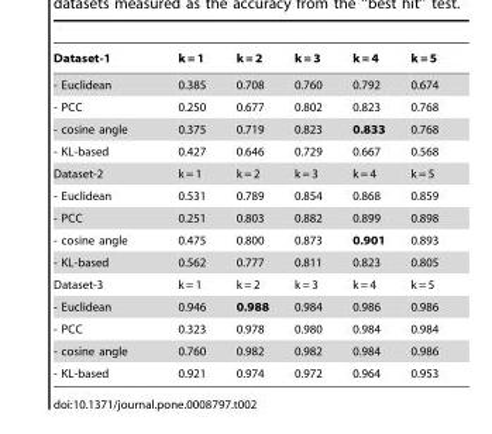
<table><thead><tr><td>Dataset-1</td><td>k = 1</td><td>k = 2</td><td>k = 3</td><td>k = 4</td><td>k = 5</td></tr></thead><tbody><tr><td>- Euclidean</td><td>0.385</td><td>0.708</td><td>0.760</td><td>0.792</td><td>0.674</td></tr><tr><td>- PCC</td><td>0.250</td><td>0.677</td><td>0.802</td><td>0.823</td><td>0.768</td></tr><tr><td>- cosine angle</td><td>0.375</td><td>0.719</td><td>0.823</td><td>0.833</td><td>0.768</td></tr><tr><td>- KL-based</td><td>0.427</td><td>0.646</td><td>0.729</td><td>0.667</td><td>0.568</td></tr><tr><td>Dataset-2</td><td>k = 1</td><td>k = 2</td><td>k = 3</td><td>k = 4</td><td>k = 5</td></tr><tr><td>- Euclidean</td><td>0.531</td><td>0.789</td><td>0.854</td><td>0.868</td><td>0.859</td></tr><tr><td>- PCC</td><td>0.251</td><td>0.803</td><td>0.882</td><td>0.899</td><td>0.898</td></tr><tr><td>- cosine angle</td><td>0.475</td><td>0.800</td><td>0.873</td><td>0.901</td><td>0.893</td></tr><tr><td>- KL-based</td><td>0.562</td><td>0.777</td><td>0.811</td><td>0.823</td><td>0.805</td></tr><tr><td>Dataset-3</td><td>k = 1</td><td>k = 2</td><td>k = 3</td><td>k = 4</td><td>k = 5</td></tr><tr><td>- Euclidean</td><td>0.946</td><td>0.988</td><td>0.984</td><td>0.986</td><td>0.986</td></tr><tr><td>- PCC</td><td>0.323</td><td>0.978</td><td>0.980</td><td>0.984</td><td>0.984</td></tr><tr><td>- cosine angle</td><td>0.760</td><td>0.982</td><td>0.982</td><td>0.984</td><td>0.986</td></tr><tr><td>- KL-based</td><td>0.921</td><td>0.974</td><td>0.972</td><td>0.964</td><td>0.953</td></tr></tbody></table>